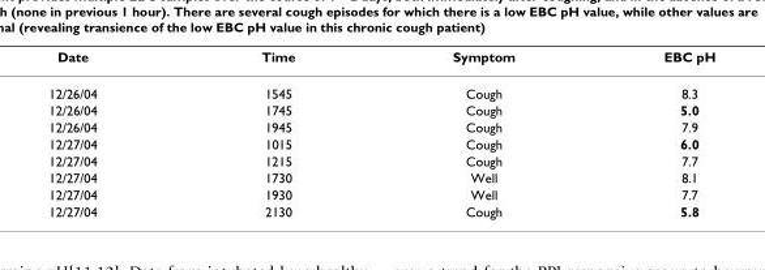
<table><thead><tr><td>Date</td><td>Time</td><td>Symptom</td><td>EBC pH</td></tr></thead><tbody><tr><td>12/26/04</td><td>1545</td><td>Cough</td><td>8.3</td></tr><tr><td>12/26/04</td><td>1745</td><td>Cough</td><td>5.0</td></tr><tr><td>12/26/04</td><td>1945</td><td>Cough</td><td>7.9</td></tr><tr><td>12/27/04</td><td>1015</td><td>Cough</td><td>6.0</td></tr><tr><td>12/27/04</td><td>1215</td><td>Cough</td><td>7.7</td></tr><tr><td>12/27/04</td><td>1730</td><td>Well</td><td>8.1</td></tr><tr><td>12/27/04</td><td>1930</td><td>Well</td><td>7.7</td></tr><tr><td>12/27/04</td><td>2130</td><td>Cough</td><td>5.8</td></tr></tbody></table>